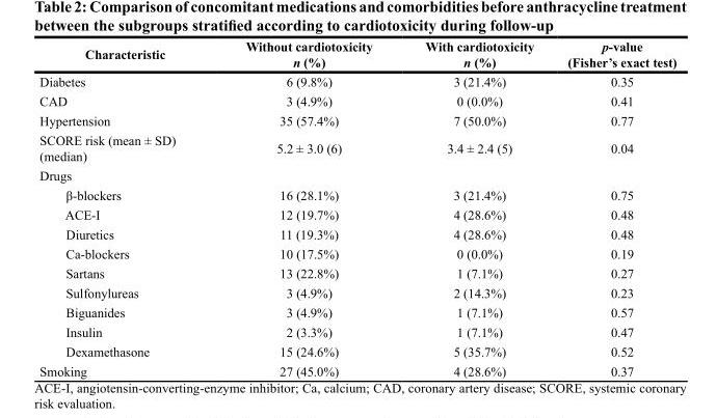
<table><thead><tr><td>Characteristic</td><td>Without cardiotoxicity n (%)</td><td>With cardiotoxicity n (%)</td><td>p-value (Fisher’s exact test)</td></tr></thead><tbody><tr><td>Diabetes</td><td>6 (9.8%)</td><td>3 (21.4%)</td><td>0.35</td></tr><tr><td>CAD</td><td>3 (4.9%)</td><td>0 (0.0%)</td><td>0.41</td></tr><tr><td>Hypertension</td><td>35 (57.4%)</td><td>7 (50.0%)</td><td>0.77</td></tr><tr><td>SCORE risk (mean ± SD) (median)</td><td>5.2 ± 3.0 (6)</td><td>3.4 ± 2.4 (5)</td><td>0.04</td></tr><tr><td colspan="4">Drugs</td></tr><tr><td>β-blockers</td><td>16 (28.1%)</td><td>3 (21.4%)</td><td>0.75</td></tr><tr><td>ACE-I</td><td>12 (19.7%)</td><td>4 (28.6%)</td><td>0.48</td></tr><tr><td>Diuretics</td><td>11 (19.3%)</td><td>4 (28.6%)</td><td>0.48</td></tr><tr><td>Ca-blockers</td><td>10 (17.5%)</td><td>0 (0.0%)</td><td>0.19</td></tr><tr><td>Sartans</td><td>13 (22.8%)</td><td>1 (7.1%)</td><td>0.27</td></tr><tr><td>Sulfonylureas</td><td>3 (4.9%)</td><td>2 (14.3%)</td><td>0.23</td></tr><tr><td>Biguanides</td><td>3 (4.9%)</td><td>1 (7.1%)</td><td>0.57</td></tr><tr><td>Insulin</td><td>2 (3.3%)</td><td>1 (7.1%)</td><td>0.47</td></tr><tr><td>Dexamethasone</td><td>15 (24.6%)</td><td>5 (35.7%)</td><td>0.52</td></tr><tr><td>Smoking</td><td>27 (45.0%)</td><td>4 (28.6%)</td><td>0.37</td></tr></tbody></table>